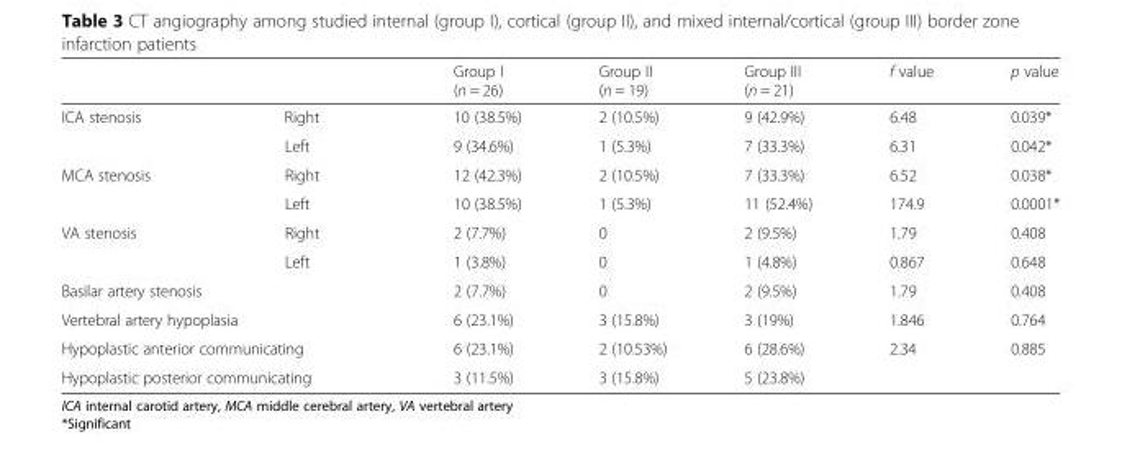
<table><thead><tr><td></td><td></td><td>Group I (n = 26)</td><td>Group II (n = 19)</td><td>Group III (n = 21)</td><td>f value</td><td>p value</td></tr></thead><tbody><tr><td rowspan="2">ICA stenosis</td><td>Right</td><td>10 (38.5%)</td><td>2 (10.5%)</td><td>9 (42.9%)</td><td>6.48</td><td>0.039*</td></tr><tr><td>Left</td><td>9 (34.6%)</td><td>1 (5.3%)</td><td>7 (33.3%)</td><td>6.31</td><td>0.042*</td></tr><tr><td rowspan="2">MCA stenosis</td><td>Right</td><td>12 (42.3%)</td><td>2 (10.5%)</td><td>7 (33.3%)</td><td>6.52</td><td>0.038*</td></tr><tr><td>Left</td><td>10 (38.5%)</td><td>1 (5.3%)</td><td>11 (52.4%)</td><td>174.9</td><td>0.0001*</td></tr><tr><td rowspan="2">VA stenosis</td><td>Right</td><td>2 (7.7%)</td><td>0</td><td>2 (9.5%)</td><td>1.79</td><td>0.408</td></tr><tr><td>Left</td><td>1 (3.8%)</td><td>0</td><td>1 (4.8%)</td><td>0.867</td><td>0.648</td></tr><tr><td colspan="2">Basilar artery stenosis</td><td>2 (7.7%)</td><td>0</td><td>2 (9.5%)</td><td>1.79</td><td>0.408</td></tr><tr><td colspan="2">Vertebral artery hypoplasia</td><td>6 (23.1%)</td><td>3 (15.8%)</td><td>3 (19%)</td><td>1.846</td><td>0.764</td></tr><tr><td colspan="2">Hypoplastic anterior communicating</td><td>6 (23.1%)</td><td>2 (10.53%)</td><td>6 (28.6%)</td><td rowspan="2">2.34</td><td rowspan="2">0.885</td></tr><tr><td colspan="2">Hypoplastic posterior communicating</td><td>3 (11.5%)</td><td>3 (15.8%)</td><td>5 (23.8%)</td></tr></tbody></table>